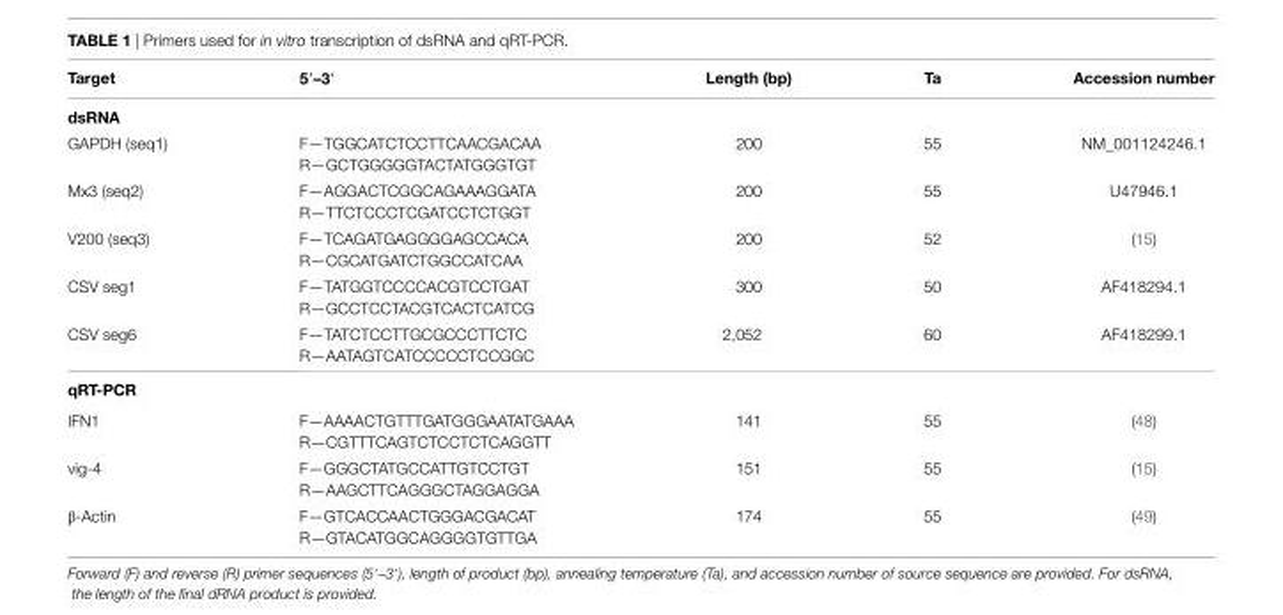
<table><thead><tr><td>Target</td><td>5′–3′</td><td>length (bp)</td><td>Ta</td><td>accession number</td></tr></thead><tbody><tr><td colspan="5">dsrna</td></tr><tr><td>GAPDH (seq1)</td><td>F—TGGCATCTCCTTCAACGACAA R—GCTGGGGGTACTATGGGTGT</td><td>200</td><td>55</td><td>NM_001124246.1</td></tr><tr><td>Mx3 (seq2)</td><td>F—AGGACTCGGCAGAAAGGATA R—TTCTCCCTCGATCCTCTGGT</td><td>200</td><td>55</td><td>U47946.1</td></tr><tr><td>V200 (seq3)</td><td>F—TCAGATGAGGGGAGCCACA R—CGCATGATCTGGCCATCAA</td><td>200</td><td>52</td><td>(15)</td></tr><tr><td>CSV seg1</td><td>F—TATGGTCCCCACGTCCTGAT R—GCCTCCTACGTCACTCATCG</td><td>300</td><td>50</td><td>AF418294.1</td></tr><tr><td>CSV seg6</td><td>F—TATCTCCTTGCGCCCTTCTC R—AATAGTCATCCCCCTCCGGC</td><td>2,052</td><td>60</td><td>AF418299.1</td></tr><tr><td colspan="5">qrT-Pcr</td></tr><tr><td>IFN1</td><td>F—AAAACTGTTTGATGGGAATATGAAA R—CGTTTCAGTCTCCTCTCAGGTT</td><td>141</td><td>55</td><td>(48)</td></tr><tr><td>vig-4</td><td>F—GGGCTATGCCATTGTCCTGT R—AAGCTTCAGGGCTAGGAGGA</td><td>151</td><td>55</td><td>(15)</td></tr><tr><td>β-Actin</td><td>F—GTCACCAACTGGGACGACAT R—GTACATGGCAGGGGTGTTGA</td><td>174</td><td>55</td><td>(49)</td></tr></tbody></table>